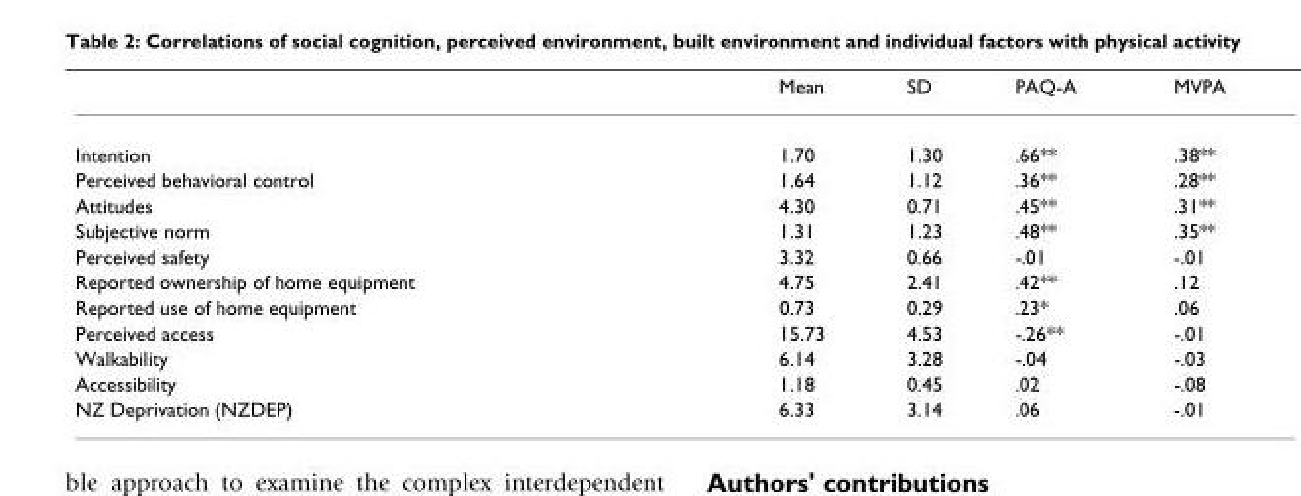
<table><thead><tr><td></td><td>Mean</td><td>SD</td><td>PAQ-A</td><td>MVPA</td></tr></thead><tbody><tr><td>Intention</td><td>1.70</td><td>1.30</td><td>.66**</td><td>.38**</td></tr><tr><td>Perceived behavioral control</td><td>1.64</td><td>1.12</td><td>.36**</td><td>.28**</td></tr><tr><td>Attitudes</td><td>4.30</td><td>0.71</td><td>.45**</td><td>.31**</td></tr><tr><td>Subjective norm</td><td>1.31</td><td>1.23</td><td>.48**</td><td>.35**</td></tr><tr><td>Perceived safety</td><td>3.32</td><td>0.66</td><td>-.01</td><td>-.01</td></tr><tr><td>Reported ownership of home equipment</td><td>4.75</td><td>2.41</td><td>.42**</td><td>.12</td></tr><tr><td>Reported use of home equipment</td><td>0.73</td><td>0.29</td><td>.23*</td><td>.06</td></tr><tr><td>Perceived access</td><td>15.73</td><td>4.53</td><td>-.26**</td><td>-.01</td></tr><tr><td>Walkability</td><td>6.14</td><td>3.28</td><td>-.04</td><td>-.03</td></tr><tr><td>Accessibility</td><td>1.18</td><td>0.45</td><td>.02</td><td>-.08</td></tr><tr><td>NZ Deprivation (NZDEP)</td><td>6.33</td><td>3.14</td><td>.06</td><td>-.01</td></tr></tbody></table>